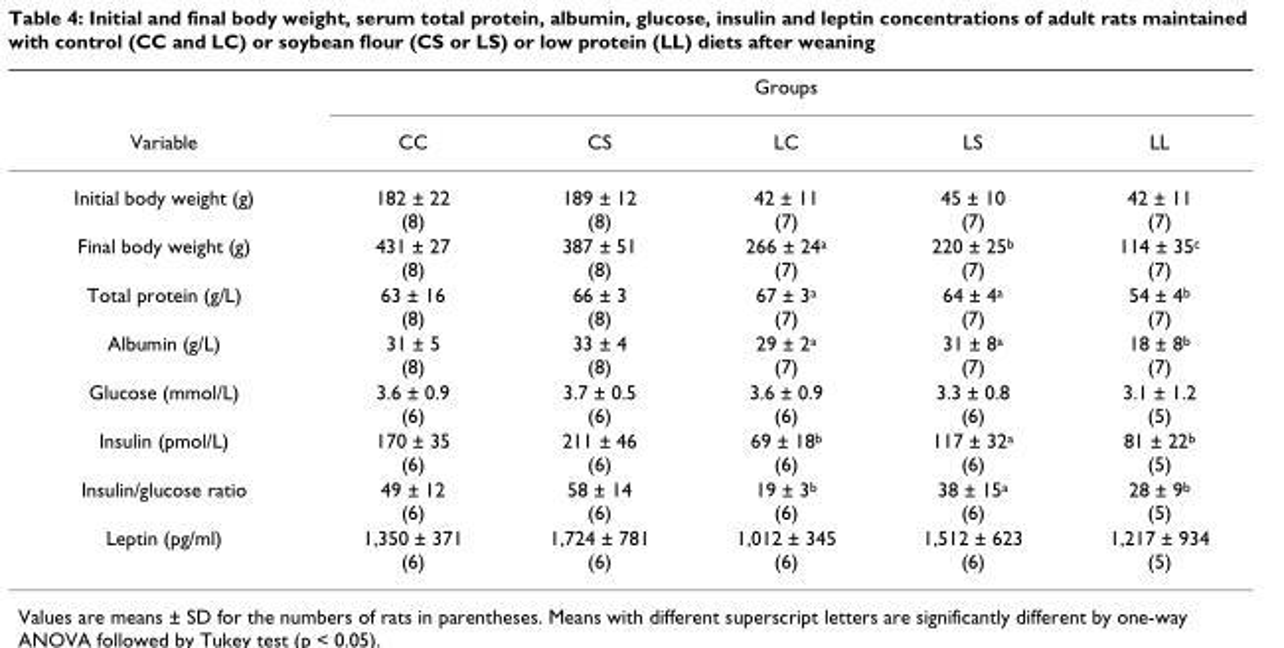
<table><thead><tr><td rowspan="2">Variable</td><td colspan="5">Groups</td></tr><tr><td>CC</td><td>CS</td><td>LC</td><td>LS</td><td>LL</td></tr></thead><tbody><tr><td>Initial body weight (g)</td><td>182 ± 22 (8)</td><td>189 ± 12 (8)</td><td>42 ± 11 (7)</td><td>45 ± 10 (7)</td><td>42 ± 11 (7)</td></tr><tr><td>Final body weight (g)</td><td>431 ± 27 (8)</td><td>387 ± 51 (8)</td><td>266 ± 24<sup>a</sup> (7)</td><td>220 ± 25<sup>b</sup> (7)</td><td>114 ± 35<sup>c</sup> (7)</td></tr><tr><td>Total protein (g/L)</td><td>63 ± 16 (8)</td><td>66 ± 3 (8)</td><td>67 ± 3<sup>a</sup> (7)</td><td>64 ± 4<sup>a</sup> (7)</td><td>54 ± 4<sup>b</sup> (7)</td></tr><tr><td>Albumin (g/L)</td><td>31 ± 5 (8)</td><td>33 ± 4 (8)</td><td>29 ± 2<sup>a</sup> (7)</td><td>31 ± 8<sup>a</sup> (7)</td><td>18 ± 8<sup>b</sup> (7)</td></tr><tr><td>Glucose (mmol/L)</td><td>3.6 ± 0.9 (6)</td><td>3.7 ± 0.5 (6)</td><td>3.6 ± 0.9 (6)</td><td>3.3 ± 0.8 (6)</td><td>3.1 ± 1.2 (5)</td></tr><tr><td>Insulin (pmol/L)</td><td>170 ± 35 (6)</td><td>211 ± 46 (6)</td><td>69 ± 18<sup>b</sup> (6)</td><td>117 ± 32<sup>a</sup> (6)</td><td>81 ± 22<sup>b</sup> (5)</td></tr><tr><td>Insulin/glucose ratio</td><td>49 ± 12 (6)</td><td>58 ± 14 (6)</td><td>19 ± 3<sup>b</sup> (6)</td><td>38 ± 15<sup>a</sup> (6)</td><td>28 ± 9<sup>b</sup> (5)</td></tr><tr><td>Leptin (pg/ml)</td><td>1,350 ± 371 (6)</td><td>1,724 ± 781 (6)</td><td>1,012 ± 345 (6)</td><td>1,512 ± 623 (6)</td><td>1,217 ± 934 (5)</td></tr></tbody></table>